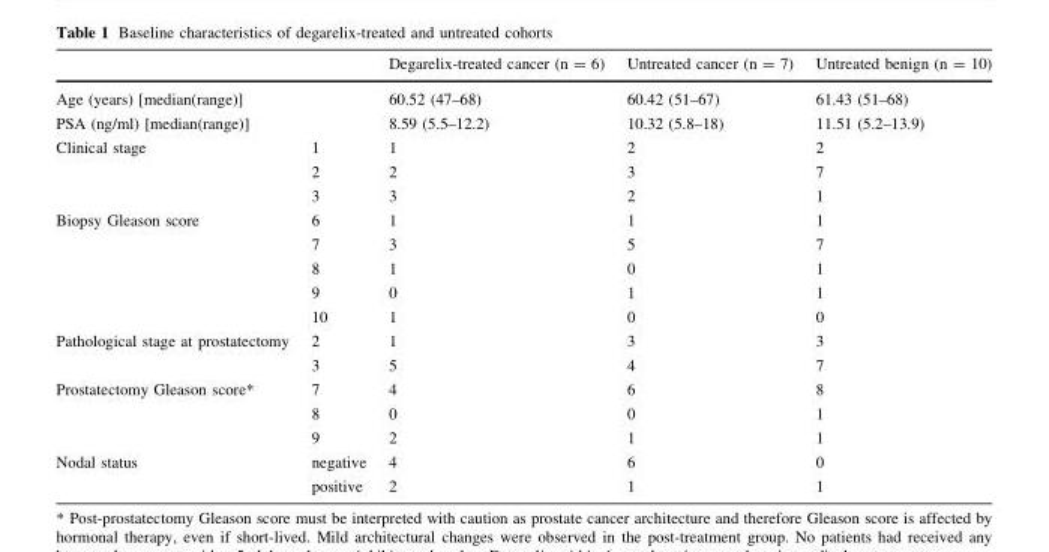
<table><thead><tr><td></td><td></td><td>Degarelix-treated cancer (n = 6)</td><td>Untreated cancer (n = 7)</td><td>Untreated benign (n = 10)</td></tr></thead><tbody><tr><td>Age (years) [median(range)]</td><td></td><td>60.52 (47–68)</td><td>60.42 (51–67)</td><td>61.43 (51–68)</td></tr><tr><td>PSA (ng/ml) [median(range)]</td><td></td><td>8.59 (5.5–12.2)</td><td>10.32 (5.8–18)</td><td>11.51 (5.2–13.9)</td></tr><tr><td rowspan="3">Clinical stage</td><td>1</td><td>1</td><td>2</td><td>2</td></tr><tr><td>2</td><td>2</td><td>3</td><td>7</td></tr><tr><td>3</td><td>3</td><td>2</td><td>1</td></tr><tr><td rowspan="5">Biopsy Gleason score</td><td>6</td><td>1</td><td>1</td><td>1</td></tr><tr><td>7</td><td>3</td><td>5</td><td>7</td></tr><tr><td>8</td><td>1</td><td>0</td><td>1</td></tr><tr><td>9</td><td>0</td><td>1</td><td>1</td></tr><tr><td>10</td><td>1</td><td>0</td><td>0</td></tr><tr><td rowspan="2">Pathological stage at prostatectomy</td><td>2</td><td>1</td><td>3</td><td>3</td></tr><tr><td>3</td><td>5</td><td>4</td><td>7</td></tr><tr><td rowspan="3">Prostatectomy Gleason score*</td><td>7</td><td>4</td><td>6</td><td>8</td></tr><tr><td>8</td><td>0</td><td>0</td><td>1</td></tr><tr><td>9</td><td>2</td><td>1</td><td>1</td></tr><tr><td rowspan="2">Nodal status</td><td>negative</td><td>4</td><td>6</td><td>0</td></tr><tr><td>positive</td><td>2</td><td>1</td><td>1</td></tr></tbody></table>